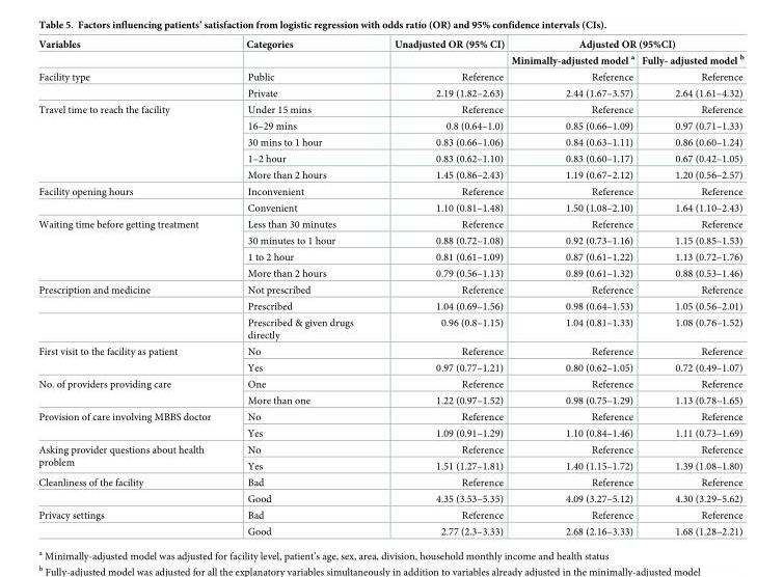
<table><thead><tr><td rowspan="2">Variables</td><td rowspan="2">Categories</td><td rowspan="2">Unadjusted OR (95% CI)</td><td colspan="2">Adjusted OR (95%CI)</td></tr><tr><td>Minimally-adjusted model <sup>a</sup></td><td>Fully- adjusted model <sup>b</sup></td></tr></thead><tbody><tr><td rowspan="2">Facility type</td><td>Public</td><td>Reference</td><td>Reference</td><td>Reference</td></tr><tr><td>Private</td><td>2.19 (1.82–2.63)</td><td>2.44 (1.67–3.57)</td><td>2.64 (1.61–4.32)</td></tr><tr><td rowspan="5">Travel time to reach the facility</td><td>Under 15 mins</td><td>Reference</td><td>Reference</td><td>Reference</td></tr><tr><td>16–29 mins</td><td>0.8 (0.64–1.0)</td><td>0.85 (0.66–1.09)</td><td>0.97 (0.71–1.33)</td></tr><tr><td>30 mins to 1 hour</td><td>0.83 (0.66–1.06)</td><td>0.84 (0.63–1.11)</td><td>0.86 (0.60–1.24)</td></tr><tr><td>1–2 hour</td><td>0.83 (0.62–1.10)</td><td>0.83 (0.60–1.17)</td><td>0.67 (0.42–1.05)</td></tr><tr><td>More than 2 hours</td><td>1.45 (0.86–2.43)</td><td>1.19 (0.67–2.12)</td><td>1.20 (0.56–2.57)</td></tr><tr><td rowspan="2">Facility opening hours</td><td>Inconvenient</td><td>Reference</td><td>Reference</td><td>Reference</td></tr><tr><td>Convenient</td><td>1.10 (0.81–1.48)</td><td>1.50 (1.08–2.10)</td><td>1.64 (1.10–2.43)</td></tr><tr><td rowspan="4">Waiting time before getting treatment</td><td>Less than 30 minutes</td><td>Reference</td><td>Reference</td><td>Reference</td></tr><tr><td>30 minutes to 1 hour</td><td>0.88 (0.72–1.08)</td><td>0.92 (0.73–1.16)</td><td>1.15 (0.85–1.53)</td></tr><tr><td>1 to 2 hour</td><td>0.81 (0.61–1.09)</td><td>0.87 (0.61–1.22)</td><td>1.13 (0.72–1.76)</td></tr><tr><td>More than 2 hours</td><td>0.79 (0.56–1.13)</td><td>0.89 (0.61–1.32)</td><td>0.88 (0.53–1.46)</td></tr><tr><td rowspan="3">Prescription and medicine</td><td>Not prescribed</td><td>Reference</td><td>Reference</td><td>Reference</td></tr><tr><td>Prescribed</td><td>1.04 (0.69–1.56)</td><td>0.98 (0.64–1.53)</td><td>1.05 (0.56–2.01)</td></tr><tr><td>Prescribed &amp; given drugs directly</td><td>0.96 (0.8–1.15)</td><td>1.04 (0.81–1.33)</td><td>1.08 (0.76–1.52)</td></tr><tr><td rowspan="2">First visit to the facility as patient</td><td>No</td><td>Reference</td><td>Reference</td><td>Reference</td></tr><tr><td>Yes</td><td>0.97 (0.77–1.21)</td><td>0.80 (0.62–1.05)</td><td>0.72 (0.49–1.07)</td></tr><tr><td rowspan="2">No. of providers providing care</td><td>One</td><td>Reference</td><td>Reference</td><td>Reference</td></tr><tr><td>More than one</td><td>1.22 (0.97–1.52)</td><td>0.98 (0.75–1.29)</td><td>1.13 (0.78–1.65)</td></tr><tr><td rowspan="2">Provision of care involving MBBS doctor</td><td>No</td><td>Reference</td><td>Reference</td><td>Reference</td></tr><tr><td>Yes</td><td>1.09 (0.91–1.29)</td><td>1.10 (0.84–1.46)</td><td>1.11 (0.73–1.69)</td></tr><tr><td rowspan="2">Asking provider questions about health problem</td><td>No</td><td>Reference</td><td>Reference</td><td>Reference</td></tr><tr><td>Yes</td><td>1.51 (1.27–1.81)</td><td>1.40 (1.15–1.72)</td><td>1.39 (1.08–1.80)</td></tr><tr><td rowspan="2">Cleanliness of the facility</td><td>Bad</td><td>Reference</td><td>Reference</td><td>Reference</td></tr><tr><td>Good</td><td>4.35 (3.53–5.35)</td><td>4.09 (3.27–5.12)</td><td>4.30 (3.29–5.62)</td></tr><tr><td rowspan="2">Privacy settings</td><td>Bad</td><td>Reference</td><td>Reference</td><td>Reference</td></tr><tr><td>Good</td><td>2.77 (2.3–3.33)</td><td>2.68 (2.16–3.33)</td><td>1.68 (1.28–2.21)</td></tr></tbody></table>